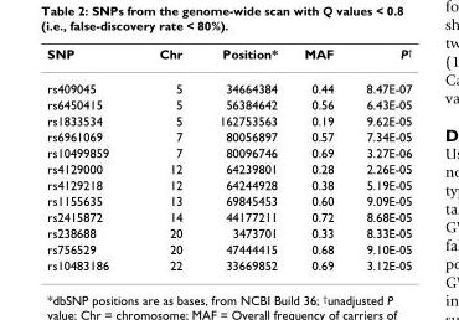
<table><thead><tr><td>SNP</td><td>Chr</td><td>Position*</td><td>MAF</td><td>P<sup>†</sup></td></tr></thead><tbody><tr><td>rs409045</td><td>5</td><td>34664384</td><td>0.44</td><td>8.47E-07</td></tr><tr><td>rs6450415</td><td>5</td><td>56384642</td><td>0.56</td><td>6.43E-05</td></tr><tr><td>rs1833534</td><td>5</td><td>162753563</td><td>0.19</td><td>9.62E-05</td></tr><tr><td>rs6961069</td><td>7</td><td>80056897</td><td>0.57</td><td>7.34E-05</td></tr><tr><td>rs10499859</td><td>7</td><td>80096746</td><td>0.69</td><td>3.27E-06</td></tr><tr><td>rs4129000</td><td>12</td><td>64239801</td><td>0.28</td><td>2.26E-05</td></tr><tr><td>rs4129218</td><td>12</td><td>64244928</td><td>0.38</td><td>5.19E-05</td></tr><tr><td>rs1155635</td><td>13</td><td>69845453</td><td>0.60</td><td>9.09E-05</td></tr><tr><td>rs2415872</td><td>14</td><td>44177211</td><td>0.72</td><td>8.68E-05</td></tr><tr><td>rs238688</td><td>20</td><td>3473701</td><td>0.33</td><td>8.33E-05</td></tr><tr><td>rs756529</td><td>20</td><td>47444415</td><td>0.68</td><td>9.10E-05</td></tr><tr><td>rs10483186</td><td>22</td><td>33669852</td><td>0.69</td><td>3.12E-05</td></tr></tbody></table>